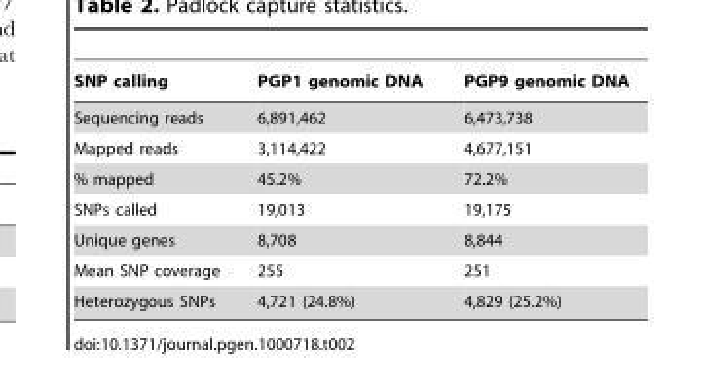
<table><thead><tr><td>SNP calling</td><td>PGP1 genomic DNA</td><td>PGP9 genomic DNA</td></tr></thead><tbody><tr><td>Sequencing reads</td><td>6,891,462</td><td>6,473,738</td></tr><tr><td>Mapped reads</td><td>3,114,422</td><td>4,677,151</td></tr><tr><td>% mapped</td><td>45.2%</td><td>72.2%</td></tr><tr><td>SNPs called</td><td>19,013</td><td>19,175</td></tr><tr><td>Unique genes</td><td>8,708</td><td>8,844</td></tr><tr><td>Mean SNP coverage</td><td>255</td><td>251</td></tr><tr><td>Heterozygous SNPs</td><td>4,721 (24.8%)</td><td>4,829 (25.2%)</td></tr></tbody></table>